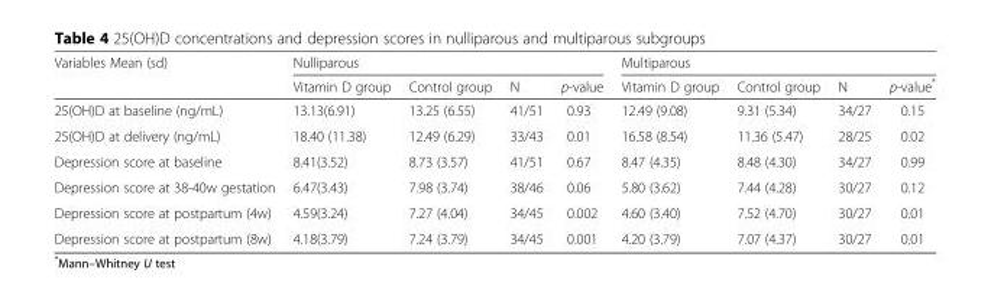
<table><thead><tr><td rowspan="2">Variables Mean (sd)</td><td colspan="4">Nulliparous</td><td colspan="4">Multiparous</td></tr><tr><td>Vitamin D group</td><td>Control group</td><td>N</td><td>p-value</td><td>Vitamin D group</td><td>Control group</td><td>N</td><td>p-value*</td></tr></thead><tbody><tr><td>25(OH)D at baseline (ng/mL)</td><td>13.13(6.91)</td><td>13.25 (6.55)</td><td>41/51</td><td>0.93</td><td>12.49 (9.08)</td><td>9.31 (5.34)</td><td>34/27</td><td>0.15</td></tr><tr><td>25(OH)D at delivery (ng/mL)</td><td>18.40 (11.38)</td><td>12.49 (6.29)</td><td>33/43</td><td>0.01</td><td>16.58 (8.54)</td><td>11.36 (5.47)</td><td>28/25</td><td>0.02</td></tr><tr><td>Depression score at baseline</td><td>8.41(3.52)</td><td>8.73 (3.57)</td><td>41/51</td><td>0.67</td><td>8.47 (4.35)</td><td>8.48 (4.30)</td><td>34/27</td><td>0.99</td></tr><tr><td>Depression score at 38-40w gestation</td><td>6.47(3.43)</td><td>7.98 (3.74)</td><td>38/46</td><td>0.06</td><td>5.80 (3.62)</td><td>7.44 (4.28)</td><td>30/27</td><td>0.12</td></tr><tr><td>Depression score at postpartum (4w)</td><td>4.59(3.24)</td><td>7.27 (4.04)</td><td>34/45</td><td>0.002</td><td>4.60 (3.40)</td><td>7.52 (4.70)</td><td>30/27</td><td>0.01</td></tr><tr><td>Depression score at postpartum (8w)</td><td>4.18(3.79)</td><td>7.24 (3.79)</td><td>34/45</td><td>0.001</td><td>4.20 (3.79)</td><td>7.07 (4.37)</td><td>30/27</td><td>0.01</td></tr></tbody></table>